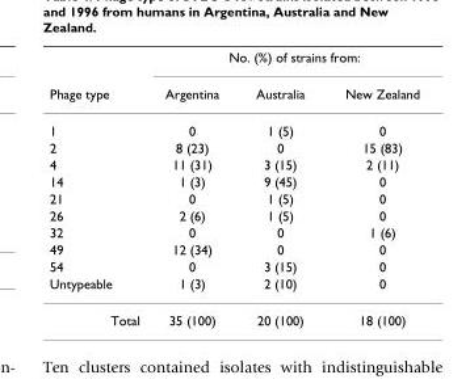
<table><thead><tr><td rowspan="2">Phage type</td><td colspan="3">No. (%) of strains from:</td></tr><tr><td>Argentina</td><td>Australia</td><td>New Zealand</td></tr></thead><tbody><tr><td>1</td><td>0</td><td>1 (5)</td><td>0</td></tr><tr><td>2</td><td>8 (23)</td><td>0</td><td>15 (83)</td></tr><tr><td>4</td><td>11 (31)</td><td>3 (15)</td><td>2 (11)</td></tr><tr><td>14</td><td>1 (3)</td><td>9 (45)</td><td>0</td></tr><tr><td>21</td><td>0</td><td>1 (5)</td><td>0</td></tr><tr><td>26</td><td>2 (6)</td><td>1 (5)</td><td>0</td></tr><tr><td>32</td><td>0</td><td>0</td><td>1 (6)</td></tr><tr><td>49</td><td>12 (34)</td><td>0</td><td>0</td></tr><tr><td>54</td><td>0</td><td>3 (15)</td><td>0</td></tr><tr><td>Untypeable</td><td>1 (3)</td><td>2 (10)</td><td>0</td></tr><tr><td>Total</td><td>35 (100)</td><td>20 (100)</td><td>18 (100)</td></tr></tbody></table>